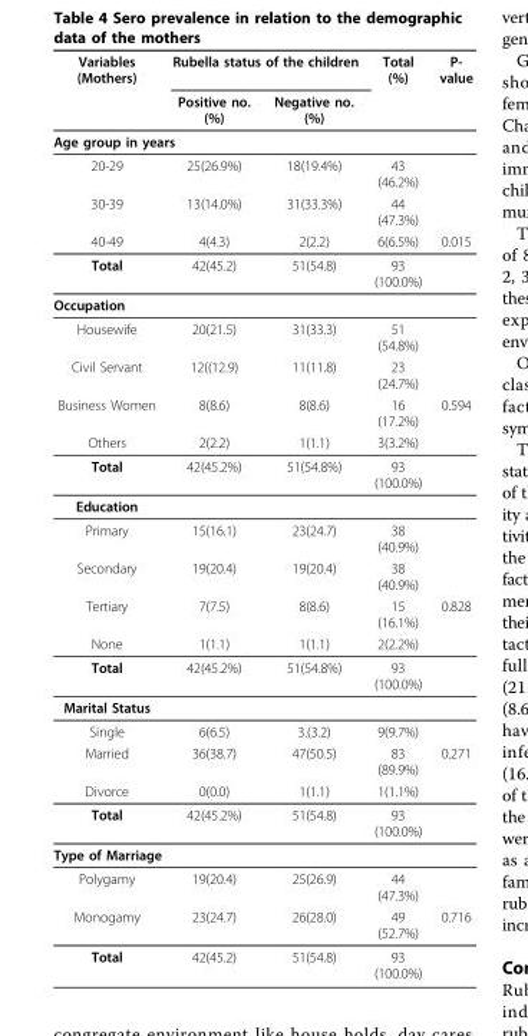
<table><thead><tr><td rowspan="2">Variables (Mothers)</td><td colspan="2">Rubella status of the children</td><td rowspan="2">Total (%)</td><td rowspan="2">P- value</td></tr><tr><td>Positive no. (%)</td><td>Negative no. (%)</td></tr></thead><tbody><tr><td colspan="5">Age group in years</td></tr><tr><td>20-29</td><td>25(26.9%)</td><td>18(19.4%)</td><td>43 (46.2%)</td><td></td></tr><tr><td>30-39</td><td>13(14.0%)</td><td>31(33.3%)</td><td>44 (47.3%)</td><td></td></tr><tr><td>40-49</td><td>4(4.3)</td><td>2(2.2)</td><td>6(6.5%)</td><td>0.015</td></tr><tr><td>Total</td><td>42(45.2)</td><td>51(54.8)</td><td>93 (100.0%)</td><td></td></tr><tr><td colspan="5">Occupation</td></tr><tr><td>Housewife</td><td>20(21.5)</td><td>31(33.3)</td><td>51 (54.8%)</td><td></td></tr><tr><td>Civil Servant</td><td>12((12.9)</td><td>11(11.8)</td><td>23 (24.7%)</td><td></td></tr><tr><td>Business Women</td><td>8(8.6)</td><td>8(8.6)</td><td>16 (17.2%)</td><td>0.594</td></tr><tr><td>Others</td><td>2(2.2)</td><td>1(1.1)</td><td>3(3.2%)</td><td></td></tr><tr><td>Total</td><td>42(45.2%)</td><td>51(54.8%)</td><td>93 (100.0%)</td><td></td></tr><tr><td colspan="5">Education</td></tr><tr><td>Primary</td><td>15(16.1)</td><td>23(24.7)</td><td>38 (40.9%)</td><td></td></tr><tr><td>Secondary</td><td>19(20.4)</td><td>19(20.4)</td><td>38 (40.9%)</td><td></td></tr><tr><td>Tertiary</td><td>7(7.5)</td><td>8(8.6)</td><td>15 (16.1%)</td><td>0.828</td></tr><tr><td>None</td><td>1(1.1)</td><td>1(1.1)</td><td>2(2.2%)</td><td></td></tr><tr><td>Total</td><td>42(45.2%)</td><td>51(54.8%)</td><td>93 (100.0%)</td><td></td></tr><tr><td colspan="5">Marital Status</td></tr><tr><td>Single</td><td>6(6.5)</td><td>3.(3.2)</td><td>9(9.7%)</td><td></td></tr><tr><td>Married</td><td>36(38.7)</td><td>47(50.5)</td><td>83 (89.9%)</td><td>0.271</td></tr><tr><td>Divorce</td><td>0(0.0)</td><td>1(1.1)</td><td>1(1.1%)</td><td></td></tr><tr><td>Total</td><td>42(45.2%)</td><td>51(54.8)</td><td>93 (100.0%)</td><td></td></tr><tr><td colspan="5">Type of Marriage</td></tr><tr><td>Polygamy</td><td>19(20.4)</td><td>25(26.9)</td><td>44 (47.3%)</td><td></td></tr><tr><td>Monogamy</td><td>23(24.7)</td><td>26(28.0)</td><td>49 (52.7%)</td><td>0.716</td></tr><tr><td>Total</td><td>42(45.2)</td><td>51(54.8)</td><td>93 (100.0%)</td><td></td></tr></tbody></table>